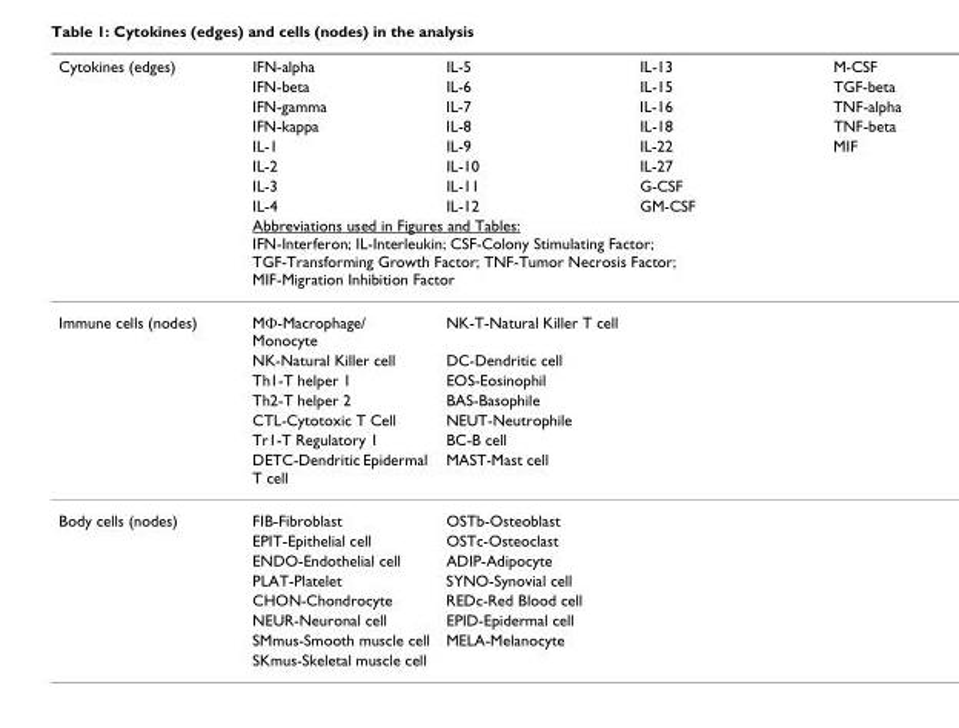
<table><thead><tr><td rowspan="9">Cytokines (edges)</td><td rowspan="8">IFN-alpha IFN-beta IFN-gamma IFN-kappa IL-1 IL-2 IL-3 IL-4</td><td rowspan="8">IL-5 IL-6 IL-7 IL-8 IL-9 IL-10 IL-11 IL-12</td><td rowspan="8">IL-13 IL-15 IL-16 IL-18 IL-22 IL-27 G-CSF GM-CSF</td><td rowspan="8">M-CSF TGF-beta TNF-alpha TNF-beta MIF</td></tr><tr></tr><tr></tr><tr></tr><tr></tr><tr></tr><tr></tr><tr></tr><tr><td colspan="4">Abbreviations used in Figures and Tables: IFN-Interferon; IL-Interleukin; CSF-Colony Stimulating Factor; TGF-Transforming Growth Factor; TNF-Tumor Necrosis Factor; MIF-Migration Inhibition Factor</td></tr></thead><tbody><tr><td rowspan="7">Immune cells (nodes)</td><td>MΦ-Macrophage/ Monocyte</td><td>NK-T-Natural Killer T cell</td><td></td><td></td></tr><tr><td>NK-Natural Killer cell</td><td>DC-Dendritic cell</td><td></td><td></td></tr><tr><td>Th1-T helper 1</td><td>EOS-Eosinophil</td><td></td><td></td></tr><tr><td>Th2-T helper 2</td><td>BAS-Basophile</td><td></td><td></td></tr><tr><td>CTL-Cytotoxic T Cell</td><td>NEUT-Neutrophile</td><td></td><td></td></tr><tr><td>Tr1-T Regulatory 1</td><td>BC-B cell</td><td></td><td></td></tr><tr><td>DETC-Dendritic Epidermal T cell</td><td>MAST-Mast cell</td><td></td><td></td></tr><tr><td rowspan="8">Body cells (nodes)</td><td>FIB-Fibroblast</td><td>OSTb-Osteoblast</td><td></td><td></td></tr><tr><td>EPIT-Epithelial cell</td><td>OSTc-Osteoclast</td><td></td><td></td></tr><tr><td>ENDO-Endothelial cell</td><td>ADIP-Adipocyte</td><td></td><td></td></tr><tr><td>PLAT-Platelet</td><td>SYNO-Synovial cell</td><td></td><td></td></tr><tr><td>CHON-Chondrocyte</td><td>REDc-Red Blood cell</td><td></td><td></td></tr><tr><td>NEUR-Neuronal cell</td><td>EPID-Epidermal cell</td><td></td><td></td></tr><tr><td>SMmus-Smooth muscle cell</td><td>MELA-Melanocyte</td><td></td><td></td></tr><tr><td>SKmus-Skeletal muscle cell</td><td></td><td></td><td></td></tr></tbody></table>